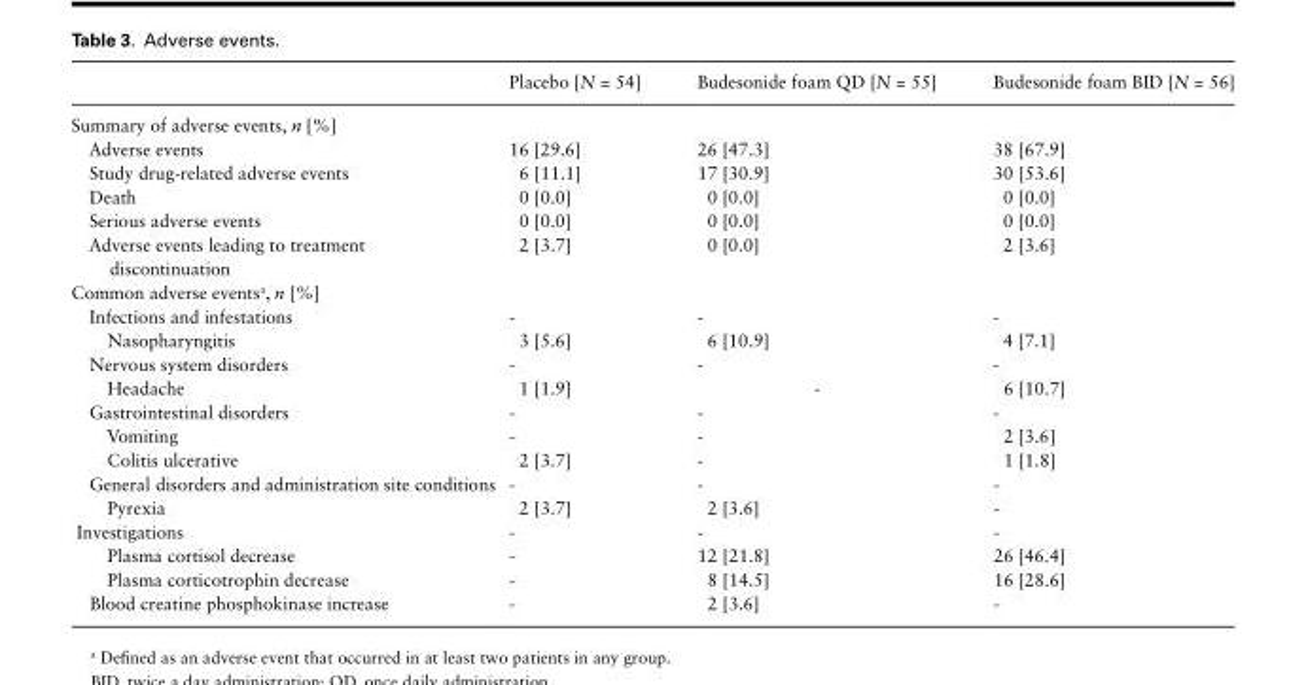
<table><thead><tr><td></td><td>Placebo [N = 54]</td><td>Budesonide foam QD [N = 55]</td><td>Budesonide foam BID [N = 56]</td></tr></thead><tbody><tr><td colspan="4">Summary of adverse events, n [%]</td></tr><tr><td>Adverse events</td><td>16 [29.6]</td><td>26 [47.3]</td><td>38 [67.9]</td></tr><tr><td>Study drug-related adverse events</td><td>6 [11.1]</td><td>17 [30.9]</td><td>30 [53.6]</td></tr><tr><td>Death</td><td>0 [0.0]</td><td>0 [0.0]</td><td>0 [0.0]</td></tr><tr><td>Serious adverse events</td><td>0 [0.0]</td><td>0 [0.0]</td><td>0 [0.0]</td></tr><tr><td>Adverse events leading to treatment discontinuation</td><td>2 [3.7]</td><td>0 [0.0]</td><td>2 [3.6]</td></tr><tr><td colspan="4">Common adverse events<sup>a</sup>, n [%]</td></tr><tr><td>Infections and infestations</td><td>-</td><td>-</td><td>-</td></tr><tr><td>Nasopharyngitis</td><td>3 [5.6]</td><td>6 [10.9]</td><td>4 [7.1]</td></tr><tr><td>Nervous system disorders</td><td>-</td><td>-</td><td>-</td></tr><tr><td>Headache</td><td>1 [1.9]</td><td>-</td><td>6 [10.7]</td></tr><tr><td>Gastrointestinal disorders</td><td>-</td><td>-</td><td>-</td></tr><tr><td>Vomiting</td><td>-</td><td>-</td><td>2 [3.6]</td></tr><tr><td>Colitis ulcerative</td><td>2 [3.7]</td><td>-</td><td>1 [1.8]</td></tr><tr><td>General disorders and administration site conditions</td><td>-</td><td>-</td><td>-</td></tr><tr><td>Pyrexia</td><td>2 [3.7]</td><td>2 [3.6]</td><td>-</td></tr><tr><td>Investigations</td><td>-</td><td>-</td><td>-</td></tr><tr><td>Plasma cortisol decrease</td><td>-</td><td>12 [21.8]</td><td>26 [46.4]</td></tr><tr><td>Plasma corticotrophin decrease</td><td>-</td><td>8 [14.5]</td><td>16 [28.6]</td></tr><tr><td>Blood creatine phosphokinase increase</td><td>-</td><td>2 [3.6]</td><td>-</td></tr></tbody></table>